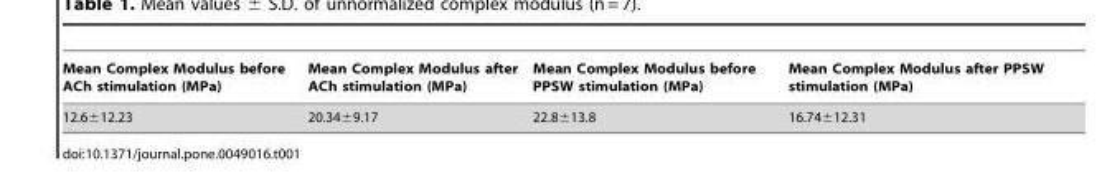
<table><thead><tr><td>Mean Complex Modulus before ACh stimulation (MPa)</td><td>Mean Complex Modulus after ACh stimulation (MPa)</td><td>Mean Complex Modulus before PPSW stimulation (MPa)</td><td>Mean Complex Modulus after PPSW stimulation (MPa)</td></tr></thead><tbody><tr><td>12.6±12.23</td><td>20.34±9.17</td><td>22.8±13.8</td><td>16.74±12.31</td></tr></tbody></table>